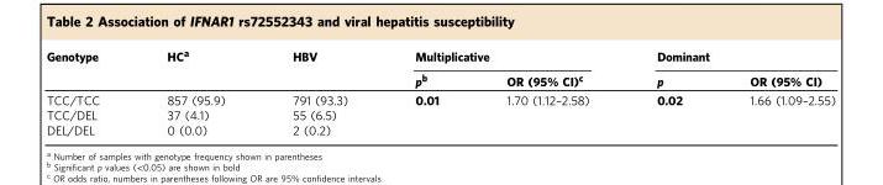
<table><thead><tr><td rowspan="2">Genotype</td><td rowspan="2">HC<sup>a</sup></td><td rowspan="2">HBV</td><td colspan="2">Multiplicative</td><td colspan="2">Dominant</td></tr><tr><td>p<sup>b</sup></td><td>OR (95% CI)<sup>c</sup></td><td>p</td><td>OR (95% CI)</td></tr></thead><tbody><tr><td>TCC/TCC</td><td>857 (95.9)</td><td>791 (93.3)</td><td>0.01</td><td>1.70 (1.12–2.58)</td><td>0.02</td><td>1.66 (1.09–2.55)</td></tr><tr><td>TCC/DEL</td><td>37 (4.1)</td><td>55 (6.5)</td><td></td><td></td><td></td><td></td></tr><tr><td>DEL/DEL</td><td>0 (0.0)</td><td>2 (0.2)</td><td></td><td></td><td></td><td></td></tr></tbody></table>